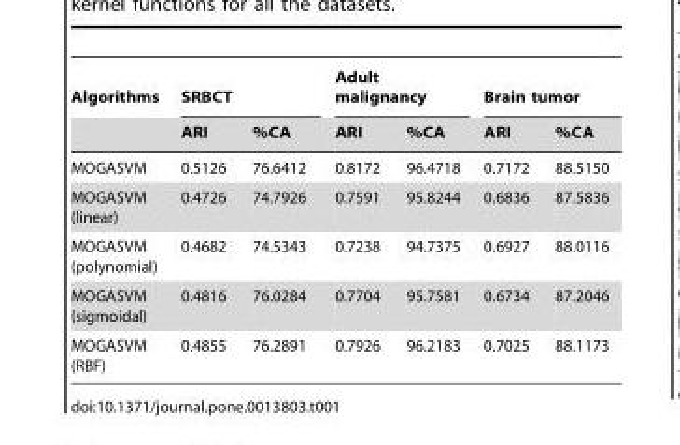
<table><thead><tr><td rowspan="2">Algorithms</td><td colspan="2">SRBCT</td><td colspan="2">Adult malignancy</td><td colspan="2">Brain tumor</td></tr><tr><td>ARI</td><td>%CA</td><td>ARI</td><td>%CA</td><td>ARI</td><td>%CA</td></tr></thead><tbody><tr><td>MOGASVM</td><td>0.5126</td><td>76.6412</td><td>0.8172</td><td>96.4718</td><td>0.7172</td><td>88.5150</td></tr><tr><td>MOGASVM (linear)</td><td>0.4726</td><td>74.7926</td><td>0.7591</td><td>95.8244</td><td>0.6836</td><td>87.5836</td></tr><tr><td>MOGASVM (polynomial)</td><td>0.4682</td><td>74.5343</td><td>0.7238</td><td>94.7375</td><td>0.6927</td><td>88.0116</td></tr><tr><td>MOGASVM (sigmoidal)</td><td>0.4816</td><td>76.0284</td><td>0.7704</td><td>95.7581</td><td>0.6734</td><td>87.2046</td></tr><tr><td>MOGASVM (RBF)</td><td>0.4855</td><td>76.2891</td><td>0.7926</td><td>96.2183</td><td>0.7025</td><td>88.1173</td></tr></tbody></table>